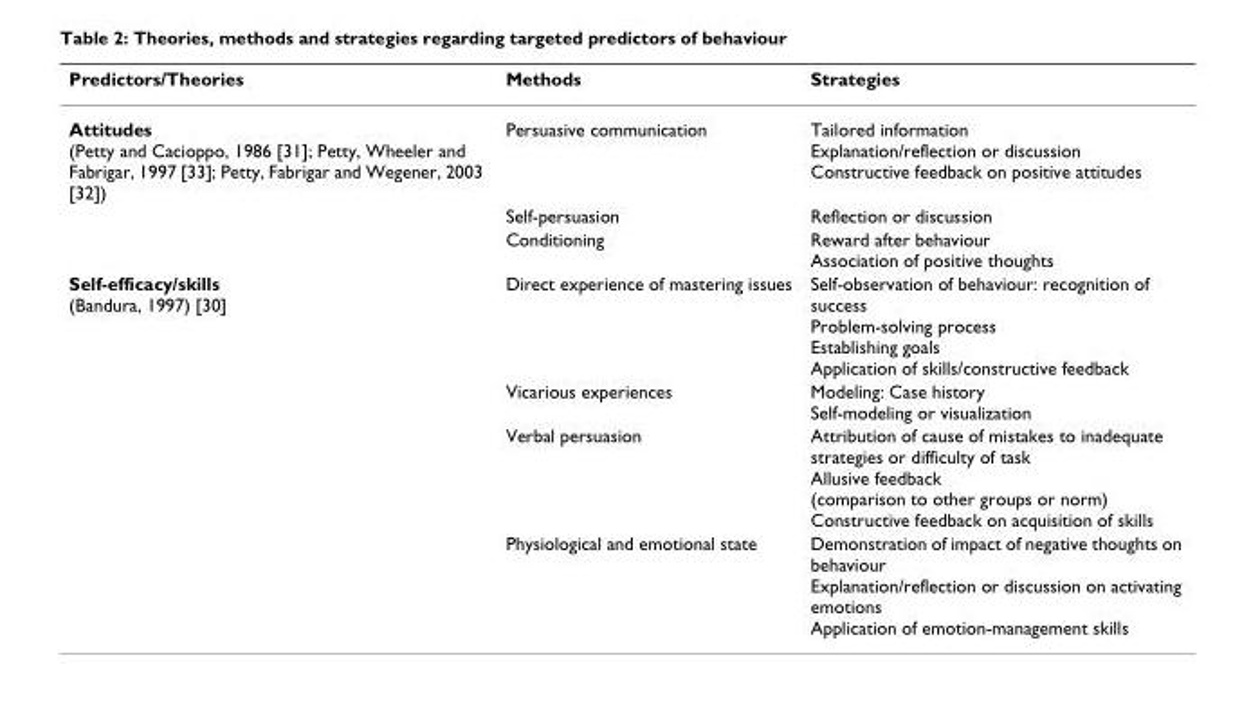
<table><thead><tr><td>Predictors/Theories</td><td>Methods</td><td>Strategies</td></tr></thead><tbody><tr><td rowspan="3">Attitudes (Petty and Cacioppo, 1986 [31]; Petty, Wheeler and Fabrigar, 1997 [33]; Petty, Fabrigar and Wegener, 2003 [32])</td><td>Persuasive communication</td><td>Tailored information Explanation/reflection or discussion Constructive feedback on positive attitudes</td></tr><tr><td>Self-persuasion</td><td>Reflection or discussion</td></tr><tr><td>Conditioning</td><td>Reward after behaviour Association of positive thoughts</td></tr><tr><td rowspan="4">Self-efficacy/skills (Bandura, 1997) [30]</td><td>Direct experience of mastering issues</td><td>Self-observation of behaviour: recognition of success Problem-solving process Establishing goals Application of skills/constructive feedback</td></tr><tr><td>Vicarious experiences</td><td>Modeling: Case history Self-modeling or visualization</td></tr><tr><td>Verbal persuasion</td><td>Attribution of cause of mistakes to inadequate strategies or difficulty of task Allusive feedback (comparison to other groups or norm) Constructive feedback on acquisition of skills</td></tr><tr><td>Physiological and emotional state</td><td>Demonstration of impact of negative thoughts on behaviour Explanation/reflection or discussion on activating emotions Application of emotion-management skills</td></tr></tbody></table>